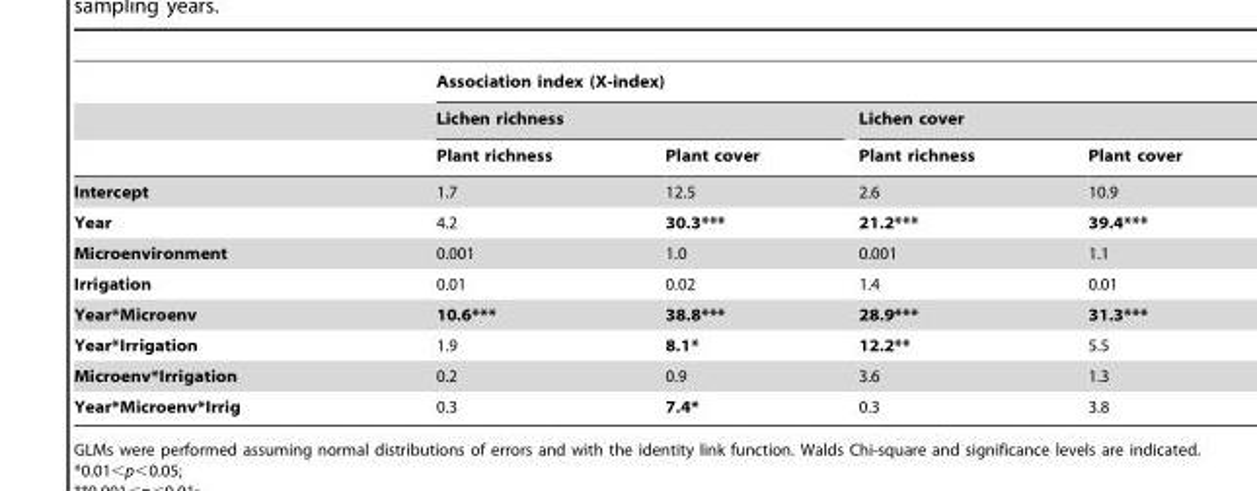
<table><thead><tr><td rowspan="3"></td><td colspan="4">Association index (X-index)</td></tr><tr><td colspan="2">Lichen richness</td><td colspan="2">Lichen cover</td></tr><tr><td>Plant richness</td><td>Plant cover</td><td>Plant richness</td><td>Plant cover</td></tr></thead><tbody><tr><td>Intercept</td><td>1.7</td><td>12.5</td><td>2.6</td><td>10.9</td></tr><tr><td>Year</td><td>4.2</td><td>30.3***</td><td>21.2***</td><td>39.4***</td></tr><tr><td>Microenvironment</td><td>0.001</td><td>1.0</td><td>0.001</td><td>1.1</td></tr><tr><td>Irrigation</td><td>0.01</td><td>0.02</td><td>1.4</td><td>0.01</td></tr><tr><td>Year*Microenv</td><td>10.6***</td><td>38.8***</td><td>28.9***</td><td>31.3***</td></tr><tr><td>Year*Irrigation</td><td>1.9</td><td>8.1*</td><td>12.2**</td><td>5.5</td></tr><tr><td>Microenv*Irrigation</td><td>0.2</td><td>0.9</td><td>3.6</td><td>1.3</td></tr><tr><td>Year*Microenv*Irrig</td><td>0.3</td><td>7.4*</td><td>0.3</td><td>3.8</td></tr></tbody></table>